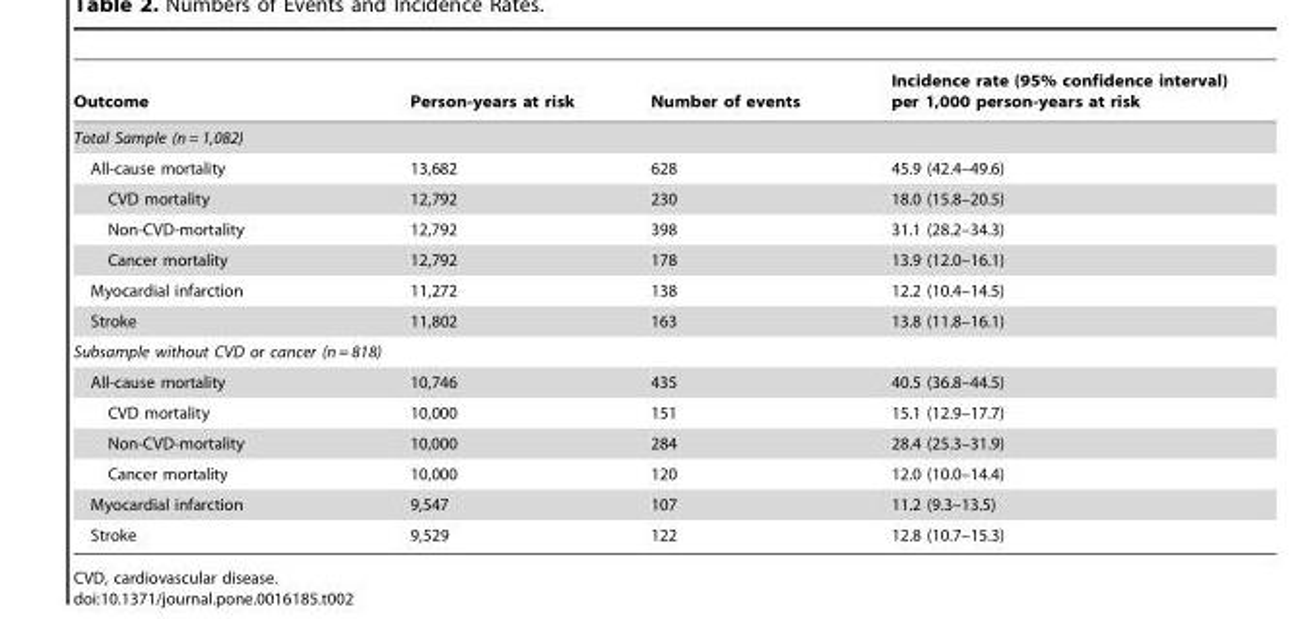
<table><thead><tr><td>Outcome</td><td>Person-years at risk</td><td>Number of events</td><td>Incidence rate (95% confidence interval) per 1,000 person-years at risk</td></tr></thead><tbody><tr><td colspan="4">Total Sample (n = 1,082)</td></tr><tr><td>All-cause mortality</td><td>13,682</td><td>628</td><td>45.9 (42.4–49.6)</td></tr><tr><td>CVD mortality</td><td>12,792</td><td>230</td><td>18.0 (15.8–20.5)</td></tr><tr><td>Non-CVD-mortality</td><td>12,792</td><td>398</td><td>31.1 (28.2–34.3)</td></tr><tr><td>Cancer mortality</td><td>12,792</td><td>178</td><td>13.9 (12.0–16.1)</td></tr><tr><td>Myocardial infarction</td><td>11,272</td><td>138</td><td>12.2 (10.4–14.5)</td></tr><tr><td>Stroke</td><td>11,802</td><td>163</td><td>13.8 (11.8–16.1)</td></tr><tr><td colspan="4">Subsample without CVD or cancer (n = 818)</td></tr><tr><td>All-cause mortality</td><td>10,746</td><td>435</td><td>40.5 (36.8–44.5)</td></tr><tr><td>CVD mortality</td><td>10,000</td><td>151</td><td>15.1 (12.9–17.7)</td></tr><tr><td>Non-CVD-mortality</td><td>10,000</td><td>284</td><td>28.4 (25.3–31.9)</td></tr><tr><td>Cancer mortality</td><td>10,000</td><td>120</td><td>12.0 (10.0–14.4)</td></tr><tr><td>Myocardial infarction</td><td>9,547</td><td>107</td><td>11.2 (9.3–13.5)</td></tr><tr><td>Stroke</td><td>9,529</td><td>122</td><td>12.8 (10.7–15.3)</td></tr></tbody></table>